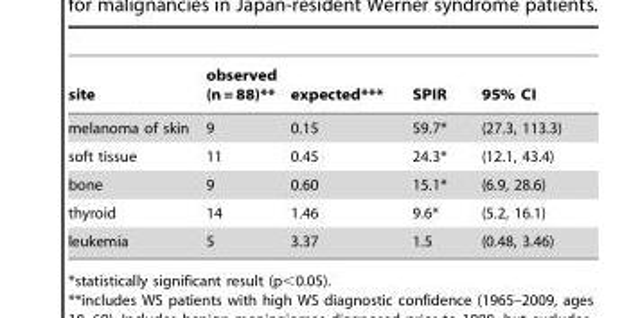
<table><thead><tr><td>site</td><td>observed (n = 88)**</td><td>expected***</td><td>SPIR</td><td>95% CI</td></tr></thead><tbody><tr><td>melanoma of skin</td><td>9</td><td>0.15</td><td>59.7*</td><td>(27.3, 113.3)</td></tr><tr><td>soft tissue</td><td>11</td><td>0.45</td><td>24.3*</td><td>(12.1, 43.4)</td></tr><tr><td>bone</td><td>9</td><td>0.60</td><td>15.1*</td><td>(6.9, 28.6)</td></tr><tr><td>thyroid</td><td>14</td><td>1.46</td><td>9.6*</td><td>(5.2, 16.1)</td></tr><tr><td>leukemia</td><td>5</td><td>3.37</td><td>1.5</td><td>(0.48, 3.46)</td></tr></tbody></table>